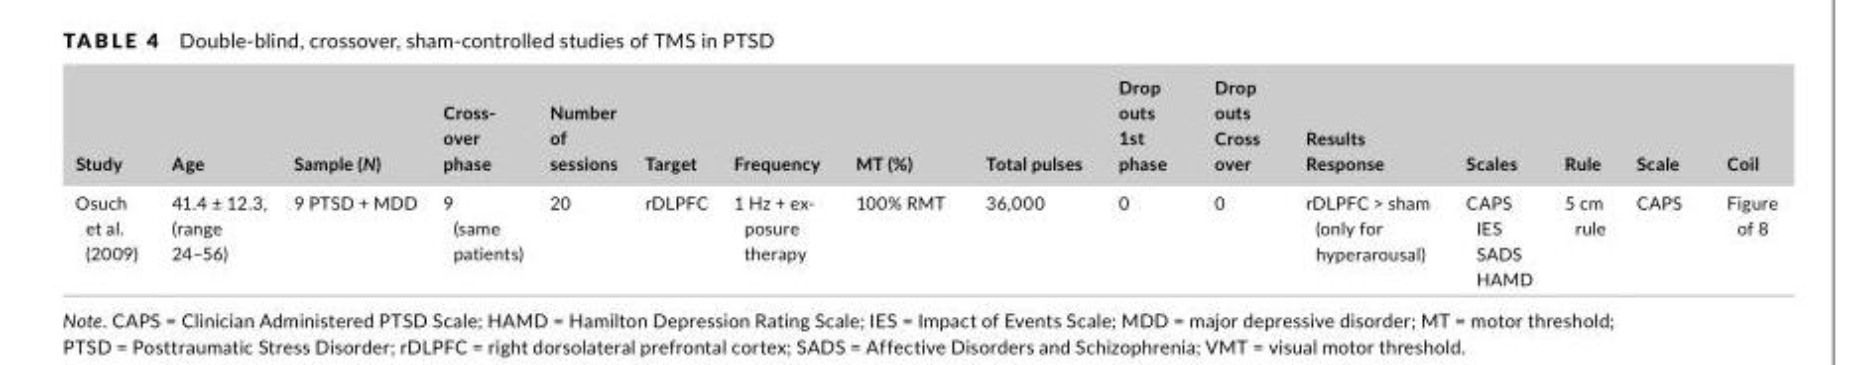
<table><thead><tr><td>Study</td><td>Age</td><td>Sample (N)</td><td>Cross‐ over phase</td><td>Number of sessions</td><td>Target</td><td>Frequency</td><td>MT (%)</td><td>Total pulses</td><td>Drop outs 1st phase</td><td>Drop outs Cross over</td><td>Results Response</td><td>Scales</td><td>Rule</td><td>Scale</td><td>Coil</td></tr></thead><tbody><tr><td>Osuch et al. (2009)</td><td>41.4 ± 12.3, (range 24–56)</td><td>9 PTSD + MDD</td><td>9 (same patients)</td><td>20</td><td>rDLPFC</td><td>1 Hz + ex‐ posure therapy</td><td>100% RMT</td><td>36,000</td><td>0</td><td>0</td><td>rDLPFC &gt; sham (only for hyperarousal)</td><td>CAPS IES SADS HAMD</td><td>5 cm rule</td><td>CAPS</td><td>Figure of 8</td></tr></tbody></table>